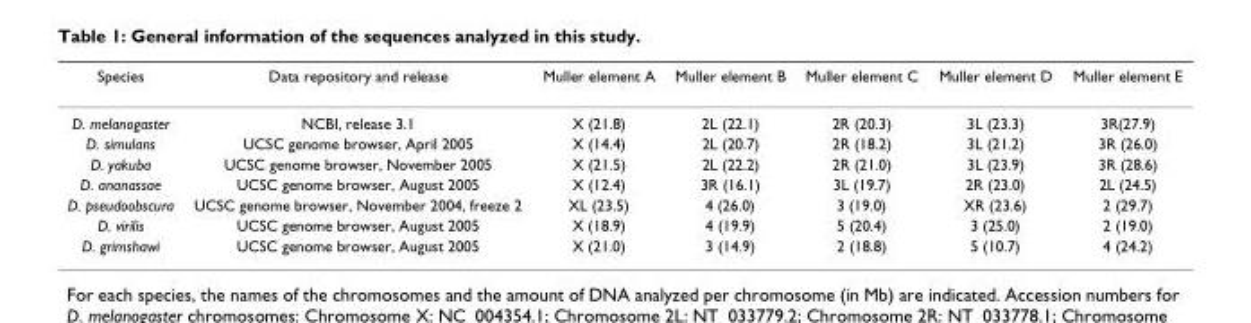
<table><thead><tr><td>Species</td><td>Data repository and release</td><td>Muller element A</td><td>Muller element B</td><td>Muller element C</td><td>Muller element D</td><td>Muller element E</td></tr></thead><tbody><tr><td>D. melanogaster</td><td>NCBI, release 3.1</td><td>X (21.8)</td><td>2L (22.1)</td><td>2R (20.3)</td><td>3L (23.3)</td><td>3R(27.9)</td></tr><tr><td>D. simulans</td><td>UCSC genome browser, April 2005</td><td>X (14.4)</td><td>2L (20.7)</td><td>2R (18.2)</td><td>3L (21.2)</td><td>3R (26.0)</td></tr><tr><td>D. yakuba</td><td>UCSC genome browser, November 2005</td><td>X (21.5)</td><td>2L (22.2)</td><td>2R (21.0)</td><td>3L (23.9)</td><td>3R (28.6)</td></tr><tr><td>D. ananassae</td><td>UCSC genome browser, August 2005</td><td>X (12.4)</td><td>3R (16.1)</td><td>3L (19.7)</td><td>2R (23.0)</td><td>2L (24.5)</td></tr><tr><td>D. pseudoobscura</td><td>UCSC genome browser, November 2004, freeze 2</td><td>XL (23.5)</td><td>4 (26.0)</td><td>3 (19.0)</td><td>XR (23.6)</td><td>2 (29.7)</td></tr><tr><td>D. virilis</td><td>UCSC genome browser, August 2005</td><td>X (18.9)</td><td>4 (19.9)</td><td>5 (20.4)</td><td>3 (25.0)</td><td>2 (19.0)</td></tr><tr><td>D. grimshawi</td><td>UCSC genome browser, August 2005</td><td>X (21.0)</td><td>3 (14.9)</td><td>2 (18.8)</td><td>5 (10.7)</td><td>4 (24.2)</td></tr></tbody></table>